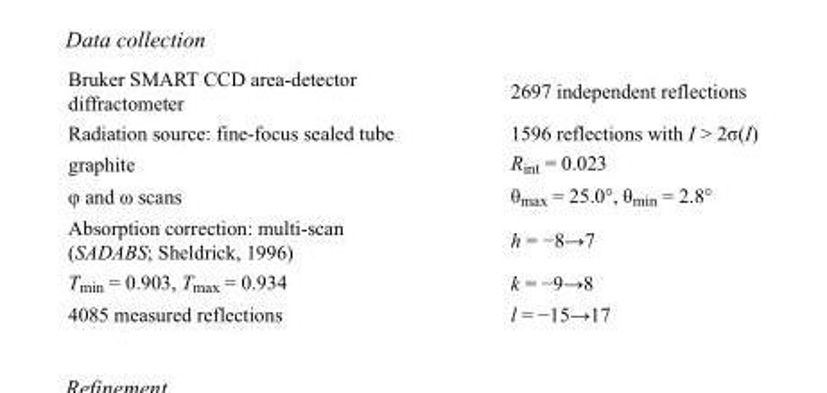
<table><tbody><tr><td>Bruker SMART CCD area-detector diffractometer</td><td>2697 independent reflections</td></tr><tr><td>Radiation source: fine-focus sealed tube</td><td>1596 reflections with I &gt; 2σ(I)</td></tr><tr><td>graphite</td><td>R<sub>int</sub> = 0.023</td></tr><tr><td>φ and ω scans</td><td>θ<sub>max</sub> = 25.0°, θ<sub>min</sub> = 2.8°</td></tr><tr><td>Absorption correction: multi-scan (SADABS; Sheldrick, 1996)</td><td>h = −8→7</td></tr><tr><td>T<sub>min</sub> = 0.903, T<sub>max</sub> = 0.934</td><td>k = −9→8</td></tr><tr><td>4085 measured reflections</td><td>l = −15→17</td></tr></tbody></table>